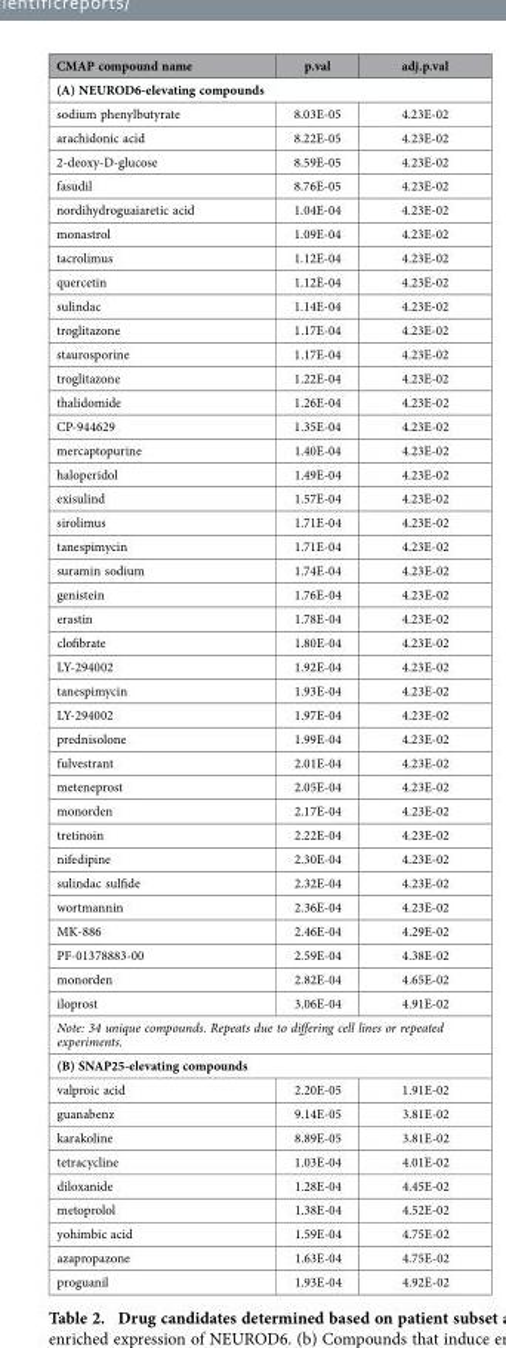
<table><thead><tr><td>CMAP compound name</td><td>p.val</td><td>adj.p.val</td></tr></thead><tbody><tr><td colspan="3">(A) NEUROD6-elevating compounds</td></tr><tr><td>sodium phenylbutyrate</td><td>8.03E-05</td><td>4.23E-02</td></tr><tr><td>arachidonic acid</td><td>8.22E-05</td><td>4.23E-02</td></tr><tr><td>2-deoxy-D-glucose</td><td>8.59E-05</td><td>4.23E-02</td></tr><tr><td>fasudil</td><td>8.76E-05</td><td>4.23E-02</td></tr><tr><td>nordihydroguaiaretic acid</td><td>1.04E-04</td><td>4.23E-02</td></tr><tr><td>monastrol</td><td>1.09E-04</td><td>4.23E-02</td></tr><tr><td>tacrolimus</td><td>1.12E-04</td><td>4.23E-02</td></tr><tr><td>quercetin</td><td>1.12E-04</td><td>4.23E-02</td></tr><tr><td>sulindac</td><td>1.14E-04</td><td>4.23E-02</td></tr><tr><td>troglitazone</td><td>1.17E-04</td><td>4.23E-02</td></tr><tr><td>staurosporine</td><td>1.17E-04</td><td>4.23E-02</td></tr><tr><td>troglitazone</td><td>1.22E-04</td><td>4.23E-02</td></tr><tr><td>thalidomide</td><td>1.26E-04</td><td>4.23E-02</td></tr><tr><td>CP-944629</td><td>1.35E-04</td><td>4.23E-02</td></tr><tr><td>mercaptopurine</td><td>1.40E-04</td><td>4.23E-02</td></tr><tr><td>haloperidol</td><td>1.49E-04</td><td>4.23E-02</td></tr><tr><td>exisulind</td><td>1.57E-04</td><td>4.23E-02</td></tr><tr><td>sirolimus</td><td>1.71E-04</td><td>4.23E-02</td></tr><tr><td>tanespimycin</td><td>1.71E-04</td><td>4.23E-02</td></tr><tr><td>suramin sodium</td><td>1.74E-04</td><td>4.23E-02</td></tr><tr><td>genistein</td><td>1.76E-04</td><td>4.23E-02</td></tr><tr><td>erastin</td><td>1.78E-04</td><td>4.23E-02</td></tr><tr><td>clofibrate</td><td>1.80E-04</td><td>4.23E-02</td></tr><tr><td>LY-294002</td><td>1.92E-04</td><td>4.23E-02</td></tr><tr><td>tanespimycin</td><td>1.93E-04</td><td>4.23E-02</td></tr><tr><td>LY-294002</td><td>1.97E-04</td><td>4.23E-02</td></tr><tr><td>prednisolone</td><td>1.99E-04</td><td>4.23E-02</td></tr><tr><td>fulvestrant</td><td>2.01E-04</td><td>4.23E-02</td></tr><tr><td>meteneprost</td><td>2.05E-04</td><td>4.23E-02</td></tr><tr><td>monorden</td><td>2.17E-04</td><td>4.23E-02</td></tr><tr><td>tretinoin</td><td>2.22E-04</td><td>4.23E-02</td></tr><tr><td>nifedipine</td><td>2.30E-04</td><td>4.23E-02</td></tr><tr><td>sulindac sulfide</td><td>2.32E-04</td><td>4.23E-02</td></tr><tr><td>wortmannin</td><td>2.36E-04</td><td>4.23E-02</td></tr><tr><td>MK-886</td><td>2.46E-04</td><td>4.29E-02</td></tr><tr><td>PF-01378883-00</td><td>2.59E-04</td><td>4.38E-02</td></tr><tr><td>monorden</td><td>2.82E-04</td><td>4.65E-02</td></tr><tr><td>iloprost</td><td>3.06E-04</td><td>4.91E-02</td></tr><tr><td colspan="3">Note: 34 unique compounds. Repeats due to differing cell lines or repeated experiments.</td></tr><tr><td colspan="3">(B) SNAP25-elevating compounds</td></tr><tr><td>valproic acid</td><td>2.20E-05</td><td>1.91E-02</td></tr><tr><td>guanabenz</td><td>9.14E-05</td><td>3.81E-02</td></tr><tr><td>karakoline</td><td>8.89E-05</td><td>3.81E-02</td></tr><tr><td>tetracycline</td><td>1.03E-04</td><td>4.01E-02</td></tr><tr><td>diloxanide</td><td>1.28E-04</td><td>4.45E-02</td></tr><tr><td>metoprolol</td><td>1.38E-04</td><td>4.52E-02</td></tr><tr><td>yohimbic acid</td><td>1.59E-04</td><td>4.75E-02</td></tr><tr><td>azapropazone</td><td>1.63E-04</td><td>4.75E-02</td></tr><tr><td>proguanil</td><td>1.93E-04</td><td>4.92E-02</td></tr></tbody></table>